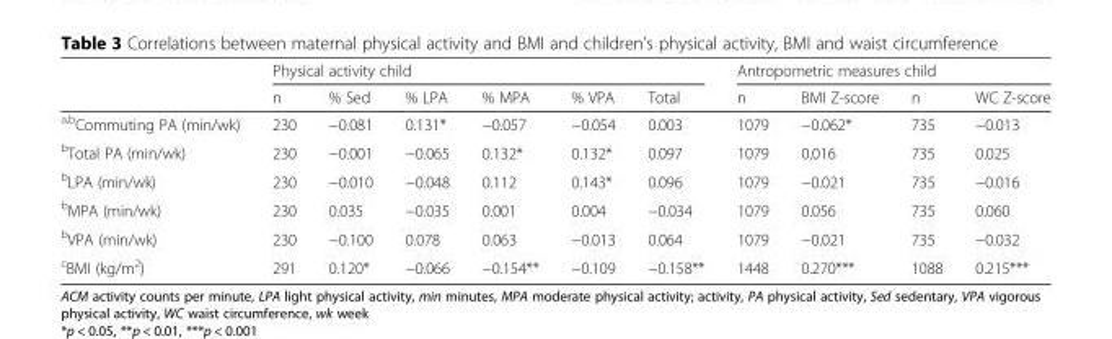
<table><thead><tr><td rowspan="2"></td><td colspan="6">Physical activity child</td><td colspan="4">Antropometric measures child</td></tr><tr><td>n</td><td>% Sed</td><td>% LPA</td><td>% MPA</td><td>% VPA</td><td>Total</td><td>n</td><td>BMI Z-score</td><td>n</td><td>WC Z-score</td></tr></thead><tbody><tr><td><sup>a,b</sup>Commuting PA (min/wk)</td><td>230</td><td>−0.081</td><td>0.131*</td><td>−0.057</td><td>−0.054</td><td>0.003</td><td>1079</td><td>−0.062*</td><td>735</td><td>−0.013</td></tr><tr><td><sup>b</sup>Total PA (min/wk)</td><td>230</td><td>−0.001</td><td>−0.065</td><td>0.132*</td><td>0.132*</td><td>0.097</td><td>1079</td><td>0.016</td><td>735</td><td>0.025</td></tr><tr><td><sup>b</sup>LPA (min/wk)</td><td>230</td><td>−0.010</td><td>−0.048</td><td>0.112</td><td>0.143*</td><td>0.096</td><td>1079</td><td>−0.021</td><td>735</td><td>−0.016</td></tr><tr><td><sup>b</sup>MPA (min/wk)</td><td>230</td><td>0.035</td><td>−0.035</td><td>0.001</td><td>0.004</td><td>−0.034</td><td>1079</td><td>0.056</td><td>735</td><td>0.060</td></tr><tr><td><sup>b</sup>VPA (min/wk)</td><td>230</td><td>−0.100</td><td>0.078</td><td>0.063</td><td>−0.013</td><td>0.064</td><td>1079</td><td>−0.021</td><td>735</td><td>−0.032</td></tr><tr><td><sup>c</sup>BMI (kg/m<sup>2</sup>)</td><td>291</td><td>0.120*</td><td>−0.066</td><td>−0.154**</td><td>−0.109</td><td>−0.158**</td><td>1448</td><td>0.270***</td><td>1088</td><td>0.215***</td></tr></tbody></table>